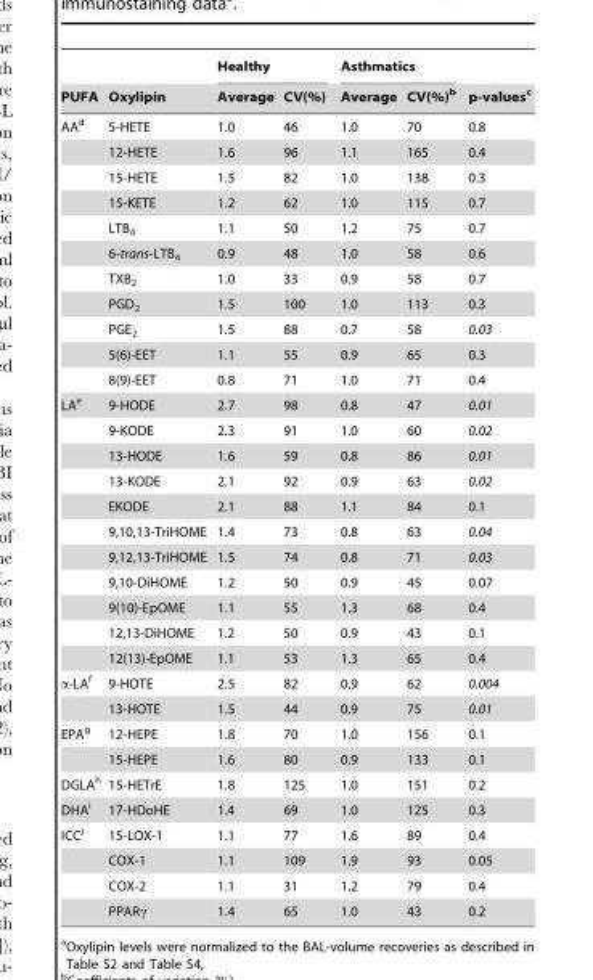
<table><thead><tr><td rowspan="2">PUFA</td><td rowspan="2">Oxylipin</td><td colspan="2">Healthy</td><td colspan="2">Asthmatics</td><td rowspan="2">p-values<sup>c</sup></td></tr><tr><td>Average</td><td>CV(%)</td><td>Average</td><td>CV(%)<sup>b</sup></td></tr></thead><tbody><tr><td rowspan="11">AA<sup>d</sup></td><td>5-HETE</td><td>1.0</td><td>46</td><td>1.0</td><td>70</td><td>0.8</td></tr><tr><td>12-HETE</td><td>1.6</td><td>96</td><td>1.1</td><td>165</td><td>0.4</td></tr><tr><td>15-HETE</td><td>1.5</td><td>82</td><td>1.0</td><td>138</td><td>0.3</td></tr><tr><td>15-KETE</td><td>1.2</td><td>62</td><td>1.0</td><td>115</td><td>0.7</td></tr><tr><td>LTB<sub>4</sub></td><td>1.1</td><td>50</td><td>1.2</td><td>75</td><td>0.7</td></tr><tr><td>6-trans-LTB<sub>4</sub></td><td>0.9</td><td>48</td><td>1.0</td><td>58</td><td>0.6</td></tr><tr><td>TXB<sub>2</sub></td><td>1.0</td><td>33</td><td>0.9</td><td>58</td><td>0.7</td></tr><tr><td>PGD<sub>2</sub></td><td>1.5</td><td>100</td><td>1.0</td><td>113</td><td>0.3</td></tr><tr><td>PGE<sub>2</sub></td><td>1.5</td><td>88</td><td>0.7</td><td>58</td><td>0.03</td></tr><tr><td>5(6)-EET</td><td>1.1</td><td>55</td><td>0.9</td><td>65</td><td>0.3</td></tr><tr><td>8(9)-EET</td><td>0.8</td><td>71</td><td>1.0</td><td>71</td><td>0.4</td></tr><tr><td rowspan="11">LA<sup>e</sup></td><td>9-HODE</td><td>2.7</td><td>98</td><td>0.8</td><td>47</td><td>0.01</td></tr><tr><td>9-KODE</td><td>2.3</td><td>91</td><td>1.0</td><td>60</td><td>0.02</td></tr><tr><td>13-HODE</td><td>1.6</td><td>59</td><td>0.8</td><td>86</td><td>0.01</td></tr><tr><td>13-KODE</td><td>2.1</td><td>92</td><td>0.9</td><td>63</td><td>0.02</td></tr><tr><td>EKODE</td><td>2.1</td><td>88</td><td>1.1</td><td>84</td><td>0.1</td></tr><tr><td>9,10,13-TriHOME</td><td>1.4</td><td>73</td><td>0.8</td><td>63</td><td>0.04</td></tr><tr><td>9,12,13-TriHOME</td><td>1.5</td><td>74</td><td>0.8</td><td>71</td><td>0.03</td></tr><tr><td>9,10-DiHOME</td><td>1.2</td><td>50</td><td>0.9</td><td>45</td><td>0.07</td></tr><tr><td>9(10)-EpOME</td><td>1.1</td><td>55</td><td>1.3</td><td>68</td><td>0.4</td></tr><tr><td>12,13-DiHOME</td><td>1.2</td><td>50</td><td>0.9</td><td>43</td><td>0.1</td></tr><tr><td>12(13)-EpOME</td><td>1.1</td><td>53</td><td>1.3</td><td>65</td><td>0.4</td></tr><tr><td rowspan="2">α-LA<sup>f</sup></td><td>9-HOTE</td><td>2.5</td><td>82</td><td>0.9</td><td>62</td><td>0.004</td></tr><tr><td>13-HOTE</td><td>1.5</td><td>44</td><td>0.9</td><td>75</td><td>0.01</td></tr><tr><td rowspan="2">EPA<sup>g</sup></td><td>12-HEPE</td><td>1.8</td><td>70</td><td>1.0</td><td>156</td><td>0.1</td></tr><tr><td>15-HEPE</td><td>1.6</td><td>80</td><td>0.9</td><td>133</td><td>0.1</td></tr><tr><td>DGLA<sup>h</sup></td><td>15-HETrE</td><td>1.8</td><td>125</td><td>1.0</td><td>151</td><td>0.2</td></tr><tr><td>DHA<sup>i</sup></td><td>17-HDoHE</td><td>1.4</td><td>69</td><td>1.0</td><td>125</td><td>0.3</td></tr><tr><td rowspan="4">ICC<sup>j</sup></td><td>15-LOX-1</td><td>1.1</td><td>77</td><td>1.6</td><td>89</td><td>0.4</td></tr><tr><td>COX-1</td><td>1.1</td><td>109</td><td>1.9</td><td>93</td><td>0.05</td></tr><tr><td>COX-2</td><td>1.1</td><td>31</td><td>1.2</td><td>79</td><td>0.4</td></tr><tr><td>PPARγ</td><td>1.4</td><td>65</td><td>1.0</td><td>43</td><td>0.2</td></tr></tbody></table>